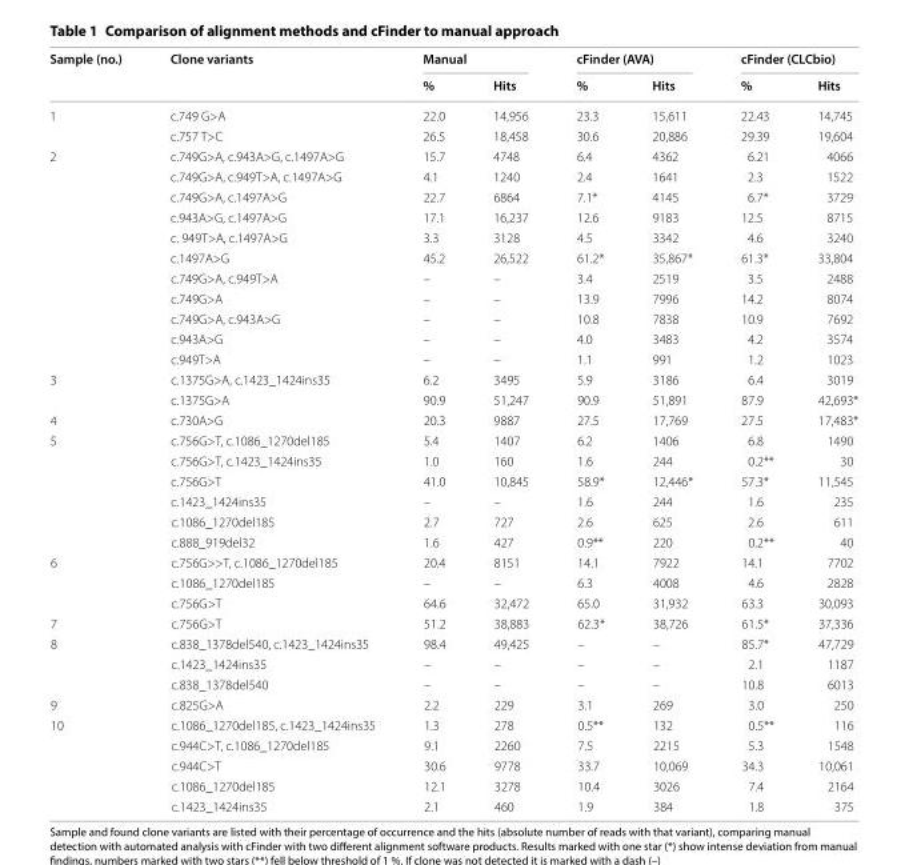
<table><thead><tr><td rowspan="2">Sample (no.)</td><td rowspan="2">Clone variants</td><td colspan="2">Manual</td><td colspan="2">cFinder (AVA)</td><td colspan="2">cFinder (CLCbio)</td></tr><tr><td>%</td><td>Hits</td><td>%</td><td>Hits</td><td>%</td><td>Hits</td></tr></thead><tbody><tr><td rowspan="2">1</td><td>c.749 G&gt;A</td><td>22.0</td><td>14,956</td><td>23.3</td><td>15,611</td><td>22.43</td><td>14,745</td></tr><tr><td>c.757 T&gt;C</td><td>26.5</td><td>18,458</td><td>30.6</td><td>20,886</td><td>29.39</td><td>19,604</td></tr><tr><td rowspan="11">2</td><td>c.749G&gt;A, c.943A&gt;G, c.1497A&gt;G</td><td>15.7</td><td>4748</td><td>6.4</td><td>4362</td><td>6.21</td><td>4066</td></tr><tr><td>c.749G&gt;A, c.949T&gt;A, c.1497A&gt;G</td><td>4.1</td><td>1240</td><td>2.4</td><td>1641</td><td>2.3</td><td>1522</td></tr><tr><td>c.749G&gt;A, c.1497A&gt;G</td><td>22.7</td><td>6864</td><td>7.1*</td><td>4145</td><td>6.7*</td><td>3729</td></tr><tr><td>c.943A&gt;G, c.1497A&gt;G</td><td>17.1</td><td>16,237</td><td>12.6</td><td>9183</td><td>12.5</td><td>8715</td></tr><tr><td>c. 949T&gt;A, c.1497A&gt;G</td><td>3.3</td><td>3128</td><td>4.5</td><td>3342</td><td>4.6</td><td>3240</td></tr><tr><td>c.1497A&gt;G</td><td>45.2</td><td>26,522</td><td>61.2*</td><td>35,867*</td><td>61.3*</td><td>33,804</td></tr><tr><td>c.749G&gt;A, c.949T&gt;A</td><td>–</td><td>–</td><td>3.4</td><td>2519</td><td>3.5</td><td>2488</td></tr><tr><td>c.749G&gt;A</td><td>–</td><td>–</td><td>13.9</td><td>7996</td><td>14.2</td><td>8074</td></tr><tr><td>c.749G&gt;A, c.943A&gt;G</td><td>–</td><td>–</td><td>10.8</td><td>7838</td><td>10.9</td><td>7692</td></tr><tr><td>c.943A&gt;G</td><td>–</td><td>–</td><td>4.0</td><td>3483</td><td>4.2</td><td>3574</td></tr><tr><td>c.949T&gt;A</td><td>–</td><td>–</td><td>1.1</td><td>991</td><td>1.2</td><td>1023</td></tr><tr><td rowspan="2">3</td><td>c.1375G&gt;A, c.1423_1424ins35</td><td>6.2</td><td>3495</td><td>5.9</td><td>3186</td><td>6.4</td><td>3019</td></tr><tr><td>c.1375G&gt;A</td><td>90.9</td><td>51,247</td><td>90.9</td><td>51,891</td><td>87.9</td><td>42,693*</td></tr><tr><td>4</td><td>c.730A&gt;G</td><td>20.3</td><td>9887</td><td>27.5</td><td>17,769</td><td>27.5</td><td>17,483*</td></tr><tr><td rowspan="6">5</td><td>c.756G&gt;T, c.1086_1270del185</td><td>5.4</td><td>1407</td><td>6.2</td><td>1406</td><td>6.8</td><td>1490</td></tr><tr><td>c.756G&gt;T, c.1423_1424ins35</td><td>1.0</td><td>160</td><td>1.6</td><td>244</td><td>0.2**</td><td>30</td></tr><tr><td>c.756G&gt;T</td><td>41.0</td><td>10,845</td><td>58.9*</td><td>12,446*</td><td>57.3*</td><td>11,545</td></tr><tr><td>c.1423_1424ins35</td><td>–</td><td>–</td><td>1.6</td><td>244</td><td>1.6</td><td>235</td></tr><tr><td>c.1086_1270del185</td><td>2.7</td><td>727</td><td>2.6</td><td>625</td><td>2.6</td><td>611</td></tr><tr><td>c.888_919del32</td><td>1.6</td><td>427</td><td>0.9**</td><td>220</td><td>0.2**</td><td>40</td></tr><tr><td rowspan="3">6</td><td>c.756G&gt;&gt;T, c.1086_1270del185</td><td>20.4</td><td>8151</td><td>14.1</td><td>7922</td><td>14.1</td><td>7702</td></tr><tr><td>c.1086_1270del185</td><td>–</td><td>–</td><td>6.3</td><td>4008</td><td>4.6</td><td>2828</td></tr><tr><td>c.756G&gt;T</td><td>64.6</td><td>32,472</td><td>65.0</td><td>31,932</td><td>63.3</td><td>30,093</td></tr><tr><td>7</td><td>c.756G&gt;T</td><td>51.2</td><td>38,883</td><td>62.3*</td><td>38,726</td><td>61.5*</td><td>37,336</td></tr><tr><td rowspan="3">8</td><td>c.838_1378del540, c.1423_1424ins35</td><td>98.4</td><td>49,425</td><td>–</td><td>–</td><td>85.7*</td><td>47,729</td></tr><tr><td>c.1423_1424ins35</td><td>–</td><td>–</td><td>–</td><td>–</td><td>2.1</td><td>1187</td></tr><tr><td>c.838_1378del540</td><td>–</td><td>–</td><td>–</td><td>–</td><td>10.8</td><td>6013</td></tr><tr><td>9</td><td>c.825G&gt;A</td><td>2.2</td><td>229</td><td>3.1</td><td>269</td><td>3.0</td><td>250</td></tr><tr><td rowspan="5">10</td><td>c.1086_1270del185, c.1423_1424ins35</td><td>1.3</td><td>278</td><td>0.5**</td><td>132</td><td>0.5**</td><td>116</td></tr><tr><td>c.944C&gt;T, c.1086_1270del185</td><td>9.1</td><td>2260</td><td>7.5</td><td>2215</td><td>5.3</td><td>1548</td></tr><tr><td>c.944C&gt;T</td><td>30.6</td><td>9778</td><td>33.7</td><td>10,069</td><td>34.3</td><td>10,061</td></tr><tr><td>c.1086_1270del185</td><td>12.1</td><td>3278</td><td>10.4</td><td>3026</td><td>7.4</td><td>2164</td></tr><tr><td>c.1423_1424ins35</td><td>2.1</td><td>460</td><td>1.9</td><td>384</td><td>1.8</td><td>375</td></tr></tbody></table>